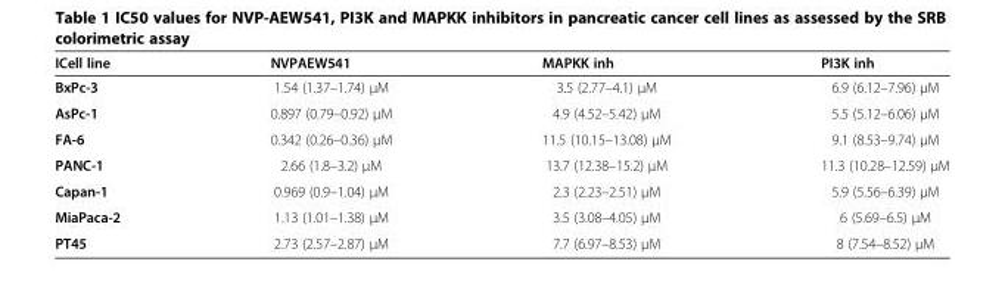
<table><thead><tr><td>ICell line</td><td>NVPAEW541</td><td>MAPKK inh</td><td>PI3K inh</td></tr></thead><tbody><tr><td>BxPc-3</td><td>1.54 (1.37–1.74) μM</td><td>3.5 (2.77–4.1) μM</td><td>6.9 (6.12–7.96) μM</td></tr><tr><td>AsPc-1</td><td>0.897 (0.79–0.92) μM</td><td>4.9 (4.52–5.42) μM</td><td>5.5 (5.12–6.06) μM</td></tr><tr><td>FA-6</td><td>0.342 (0.26–0.36) μM</td><td>11.5 (10.15–13.08) μM</td><td>9.1 (8.53–9.74) μM</td></tr><tr><td>PANC-1</td><td>2.66 (1.8–3.2) μM</td><td>13.7 (12.38–15.2) μM</td><td>11.3 (10.28–12.59) μM</td></tr><tr><td>Capan-1</td><td>0.969 (0.9–1.04) μM</td><td>2.3 (2.23–2.51) μM</td><td>5.9 (5.56–6.39) μM</td></tr><tr><td>MiaPaca-2</td><td>1.13 (1.01–1.38) μM</td><td>3.5 (3.08–4.05) μM</td><td>6 (5.69–6.5) μM</td></tr><tr><td>PT45</td><td>2.73 (2.57–2.87) μM</td><td>7.7 (6.97–8.53) μM</td><td>8 (7.54–8.52) μM</td></tr></tbody></table>